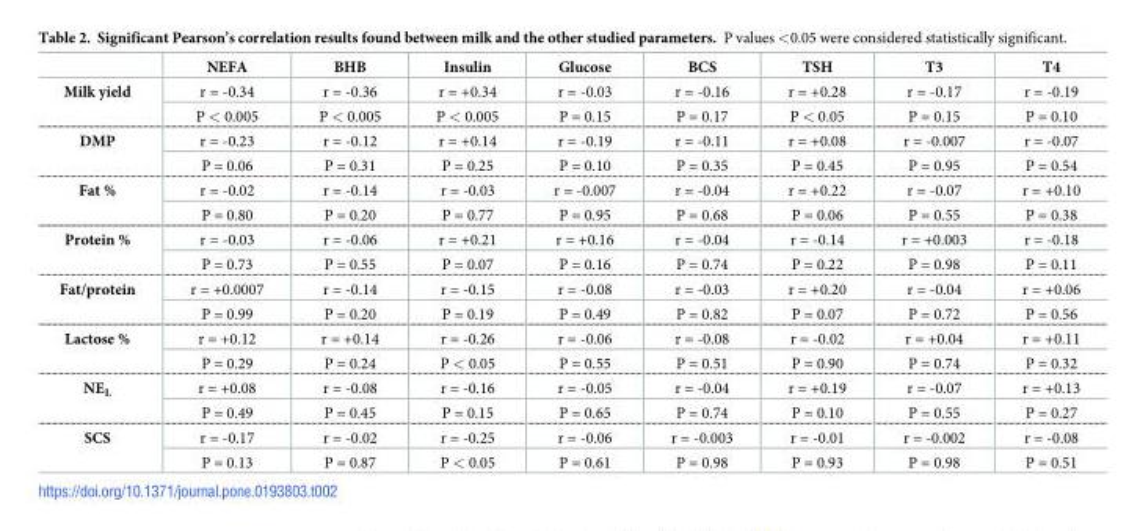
<table><thead><tr><td></td><td>NEFA</td><td>BHB</td><td>Insulin</td><td>Glucose</td><td>BCS</td><td>TSH</td><td>T3</td><td>T4</td></tr></thead><tbody><tr><td rowspan="2">Milk yield</td><td>r = -0.34</td><td>r = -0.36</td><td>r = +0.34</td><td>r = -0.03</td><td>r = -0.16</td><td>r = +0.28</td><td>r = -0.17</td><td>r = -0.19</td></tr><tr><td>P &lt; 0.005</td><td>P &lt; 0.005</td><td>P &lt; 0.005</td><td>P = 0.15</td><td>P = 0.17</td><td>P &lt; 0.05</td><td>P = 0.15</td><td>P = 0.10</td></tr><tr><td rowspan="2">DMP</td><td>r = -0.23</td><td>r = -0.12</td><td>r = +0.14</td><td>r = -0.19</td><td>r = -0.11</td><td>r = +0.08</td><td>r = -0.007</td><td>r = -0.07</td></tr><tr><td>P = 0.06</td><td>P = 0.31</td><td>P = 0.25</td><td>P = 0.10</td><td>P = 0.35</td><td>P = 0.45</td><td>P = 0.95</td><td>P = 0.54</td></tr><tr><td rowspan="2">Fat %</td><td>r = -0.02</td><td>r = -0.14</td><td>r = -0.03</td><td>r = -0.007</td><td>r = -0.04</td><td>r = +0.22</td><td>r = -0.07</td><td>r = +0.10</td></tr><tr><td>P = 0.80</td><td>P = 0.20</td><td>P = 0.77</td><td>P = 0.95</td><td>P = 0.68</td><td>P = 0.06</td><td>P = 0.55</td><td>P = 0.38</td></tr><tr><td rowspan="2">Protein %</td><td>r = -0.03</td><td>r = -0.06</td><td>r = +0.21</td><td>r = +0.16</td><td>r = -0.04</td><td>r = -0.14</td><td>r = +0.003</td><td>r = -0.18</td></tr><tr><td>P = 0.73</td><td>P = 0.55</td><td>P = 0.07</td><td>P = 0.16</td><td>P = 0.74</td><td>P = 0.22</td><td>P = 0.98</td><td>P = 0.11</td></tr><tr><td rowspan="2">Fat/protein</td><td>r = +0.0007</td><td>r = -0.14</td><td>r = -0.15</td><td>r = -0.08</td><td>r = -0.03</td><td>r = +0.20</td><td>r = -0.04</td><td>r = +0.06</td></tr><tr><td>P = 0.99</td><td>P = 0.20</td><td>P = 0.19</td><td>P = 0.49</td><td>P = 0.82</td><td>P = 0.07</td><td>P = 0.72</td><td>P = 0.56</td></tr><tr><td rowspan="2">Lactose %</td><td>r = +0.12</td><td>r = +0.14</td><td>r = -0.26</td><td>r = -0.06</td><td>r = -0.08</td><td>r = -0.02</td><td>r = +0.04</td><td>r = +0.11</td></tr><tr><td>P = 0.29</td><td>P = 0.24</td><td>P &lt; 0.05</td><td>P = 0.55</td><td>P = 0.51</td><td>P = 0.90</td><td>P = 0.74</td><td>P = 0.32</td></tr><tr><td rowspan="2">NE<sub>L</sub></td><td>r = +0.08</td><td>r = -0.08</td><td>r = -0.16</td><td>r = -0.05</td><td>r = -0.04</td><td>r = +0.19</td><td>r = -0.07</td><td>r = +0.13</td></tr><tr><td>P = 0.49</td><td>P = 0.45</td><td>P = 0.15</td><td>P = 0.65</td><td>P = 0.74</td><td>P = 0.10</td><td>P = 0.55</td><td>P = 0.27</td></tr><tr><td rowspan="2">SCS</td><td>r = -0.17</td><td>r = -0.02</td><td>r = -0.25</td><td>r = -0.06</td><td>r = -0.003</td><td>r = -0.01</td><td>r = -0.002</td><td>r = -0.08</td></tr><tr><td>P = 0.13</td><td>P = 0.87</td><td>P &lt; 0.05</td><td>P = 0.61</td><td>P = 0.98</td><td>P = 0.93</td><td>P = 0.98</td><td>P = 0.51</td></tr></tbody></table>